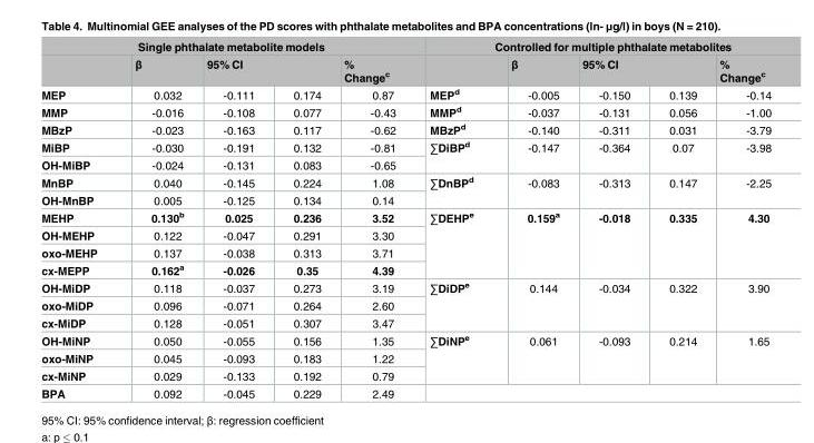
<table><thead><tr><td colspan="5">Single phthalate metabolite models</td><td colspan="5">Controlled for multiple phthalate metabolites</td></tr><tr><td rowspan="2">MEP</td><td rowspan="2">β 0.032</td><td colspan="2">95% CI</td><td rowspan="2">% Change<sup>c</sup> 0.87</td><td rowspan="2">MEP<sup>d</sup></td><td rowspan="2">β -0.005</td><td colspan="2">95% CI</td><td rowspan="2">% Change<sup>c</sup> -0.14</td></tr><tr><td>-0.111</td><td>0.174</td><td>-0.150</td><td>0.139</td></tr></thead><tbody><tr><td>MMP</td><td>-0.016</td><td>-0.108</td><td>0.077</td><td>-0.43</td><td>MMP<sup>d</sup></td><td>-0.037</td><td>-0.131</td><td>0.056</td><td>-1.00</td></tr><tr><td>MBzP</td><td>-0.023</td><td>-0.163</td><td>0.117</td><td>-0.62</td><td>MBzP<sup>d</sup></td><td>-0.140</td><td>-0.311</td><td>0.031</td><td>-3.79</td></tr><tr><td>MiBP</td><td>-0.030</td><td>-0.191</td><td>0.132</td><td>-0.81</td><td rowspan="2">∑DiBP<sup>d</sup></td><td rowspan="2">-0.147</td><td rowspan="2">-0.364</td><td rowspan="2">0.07</td><td rowspan="2">-3.98</td></tr><tr><td>OH-MiBP</td><td>-0.024</td><td>-0.131</td><td>0.083</td><td>-0.65</td></tr><tr><td>MnBP</td><td>0.040</td><td>-0.145</td><td>0.224</td><td>1.08</td><td rowspan="2">∑DnBP<sup>d</sup></td><td rowspan="2">-0.083</td><td rowspan="2">-0.313</td><td rowspan="2">0.147</td><td rowspan="2">-2.25</td></tr><tr><td>OH-MnBP</td><td>0.005</td><td>-0.125</td><td>0.134</td><td>0.14</td></tr><tr><td>MEHP</td><td>0.130<sup>b</sup></td><td>0.025</td><td>0.236</td><td>3.52</td><td rowspan="4">∑DEHP<sup>e</sup></td><td rowspan="4">0.159<sup>a</sup></td><td rowspan="4">-0.018</td><td rowspan="4">0.335</td><td rowspan="4">4.30</td></tr><tr><td>OH-MEHP</td><td>0.122</td><td>-0.047</td><td>0.291</td><td>3.30</td></tr><tr><td>oxo-MEHP</td><td>0.137</td><td>-0.038</td><td>0.313</td><td>3.71</td></tr><tr><td>cx-MEPP</td><td>0.162<sup>a</sup></td><td>-0.026</td><td>0.35</td><td>4.39</td></tr><tr><td>OH-MiDP</td><td>0.118</td><td>-0.037</td><td>0.273</td><td>3.19</td><td rowspan="3">∑DiDP<sup>e</sup></td><td rowspan="3">0.144</td><td rowspan="3">-0.034</td><td rowspan="3">0.322</td><td rowspan="3">3.90</td></tr><tr><td>oxo-MiDP</td><td>0.096</td><td>-0.071</td><td>0.264</td><td>2.60</td></tr><tr><td>cx-MiDP</td><td>0.128</td><td>-0.051</td><td>0.307</td><td>3.47</td></tr><tr><td>OH-MiNP</td><td>0.050</td><td>-0.055</td><td>0.156</td><td>1.35</td><td rowspan="3">∑DiNP<sup>e</sup></td><td rowspan="3">0.061</td><td rowspan="3">-0.093</td><td rowspan="3">0.214</td><td rowspan="3">1.65</td></tr><tr><td>oxo-MiNP</td><td>0.045</td><td>-0.093</td><td>0.183</td><td>1.22</td></tr><tr><td>cx-MiNP</td><td>0.029</td><td>-0.133</td><td>0.192</td><td>0.79</td></tr><tr><td>BPA</td><td>0.092</td><td>-0.045</td><td>0.229</td><td>2.49</td><td colspan="5"></td></tr></tbody></table>